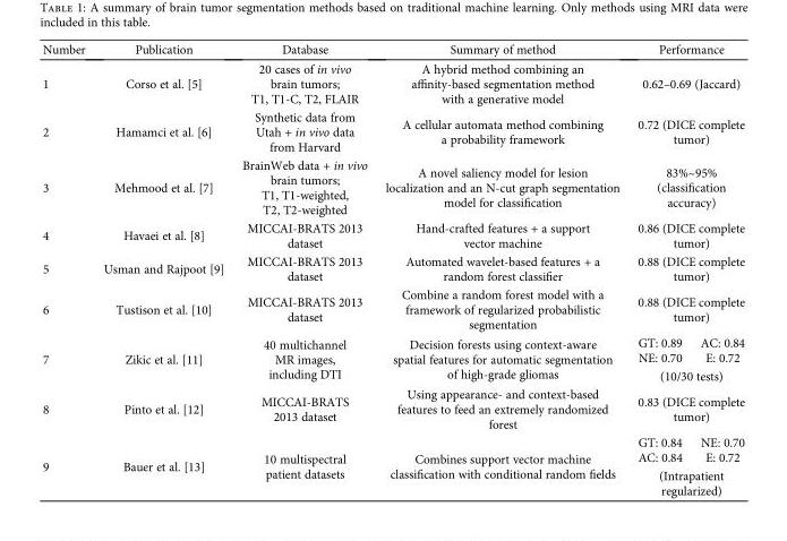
<table><thead><tr><td>Number</td><td>Publication</td><td>Database</td><td>Summary of method</td><td colspan="2">Performance</td></tr></thead><tbody><tr><td>1</td><td>Corso et al. [5]</td><td>20 cases of in vivo brain tumors; T1, T1-C, T2, FLAIR</td><td>A hybrid method combining an affinity-based segmentation method with a generative model</td><td colspan="2">0.62–0.69 (Jaccard)</td></tr><tr><td>2</td><td>Hamamci et al. [6]</td><td>Synthetic data from Utah + in vivo data from Harvard</td><td>A cellular automata method combining a probability framework</td><td colspan="2">0.72 (DICE complete tumor)</td></tr><tr><td>3</td><td>Mehmood et al. [7]</td><td>BrainWeb data + in vivo brain tumors; T1, T1-weighted, T2, T2-weighted</td><td>A novel saliency model for lesion localization and an N-cut graph segmentation model for classification</td><td colspan="2">83%~95% (classification accuracy)</td></tr><tr><td>4</td><td>Havaei et al. [8]</td><td>MICCAI-BRATS 2013 dataset</td><td>Hand-crafted features + a support vector machine</td><td colspan="2">0.86 (DICE complete tumor)</td></tr><tr><td>5</td><td>Usman and Rajpoot [9]</td><td>MICCAI-BRATS 2013 dataset</td><td>Automated wavelet-based features + a random forest classifier</td><td colspan="2">0.88 (DICE complete tumor)</td></tr><tr><td>6</td><td>Tustison et al. [10]</td><td>MICCAI-BRATS 2013 dataset</td><td>Combine a random forest model with a framework of regularized probabilistic segmentation</td><td colspan="2">0.88 (DICE complete tumor)</td></tr><tr><td rowspan="2">7</td><td rowspan="2">Zikic et al. [11]</td><td rowspan="2">40 multichannel MR images, including DTI</td><td rowspan="2">Decision forests using context-aware spatial features for automatic segmentation of high-grade gliomas</td><td>GT: 0.89 NE: 0.70</td><td>AC: 0.84 E: 0.72</td></tr><tr><td colspan="2">(10/30 tests)</td></tr><tr><td>8</td><td>Pinto et al. [12]</td><td>MICCAI-BRATS 2013 dataset</td><td>Using appearance- and context-based features to feed an extremely randomized forest</td><td colspan="2">0.83 (DICE complete tumor)</td></tr><tr><td rowspan="2">9</td><td rowspan="2">Bauer et al. [13]</td><td rowspan="2">10 multispectral patient datasets</td><td rowspan="2">Combines support vector machine classification with conditional random fields</td><td>GT: 0.84 AC: 0.84</td><td>NE: 0.70 E: 0.72</td></tr><tr><td colspan="2">(Intrapatient regularized)</td></tr></tbody></table>